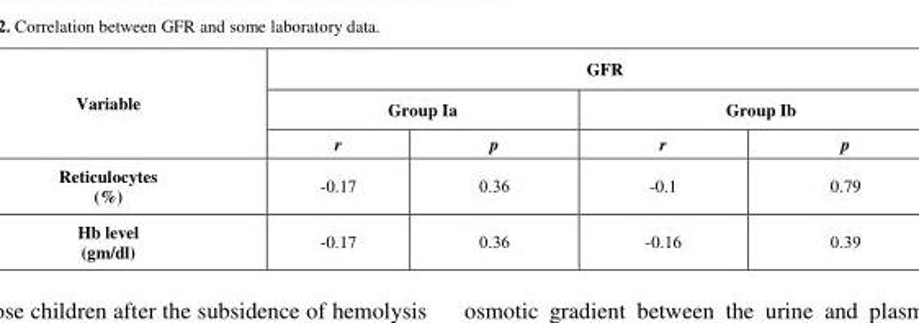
<table><thead><tr><td rowspan="3">Variable</td><td colspan="4">GFR</td></tr><tr><td colspan="2">Group Ia</td><td colspan="2">Group Ib</td></tr><tr><td>r</td><td>p</td><td>r</td><td>p</td></tr></thead><tbody><tr><td>Reticulocytes (%)</td><td>-0.17</td><td>0.36</td><td>-0.1</td><td>0.79</td></tr><tr><td>Hb level (gm/dl)</td><td>-0.17</td><td>0.36</td><td>-0.16</td><td>0.39</td></tr></tbody></table>